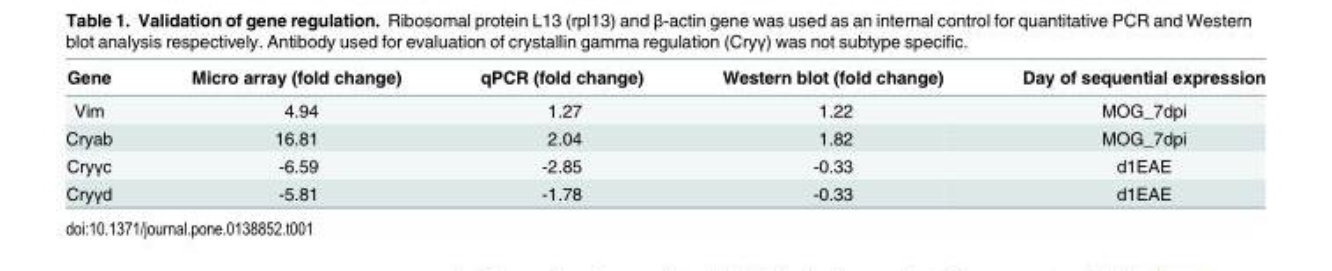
<table><thead><tr><td>Gene</td><td>Micro array (fold change)</td><td>qPCR (fold change)</td><td>Western blot (fold change)</td><td>Day of sequential expression</td></tr></thead><tbody><tr><td>Vim</td><td>4.94</td><td>1.27</td><td>1.22</td><td>MOG_7dpi</td></tr><tr><td>Cryab</td><td>16.81</td><td>2.04</td><td>1.82</td><td>MOG_7dpi</td></tr><tr><td>Cryγc</td><td>-6.59</td><td>-2.85</td><td>-0.33</td><td>d1EAE</td></tr><tr><td>Cryγd</td><td>-5.81</td><td>-1.78</td><td>-0.33</td><td>d1EAE</td></tr></tbody></table>